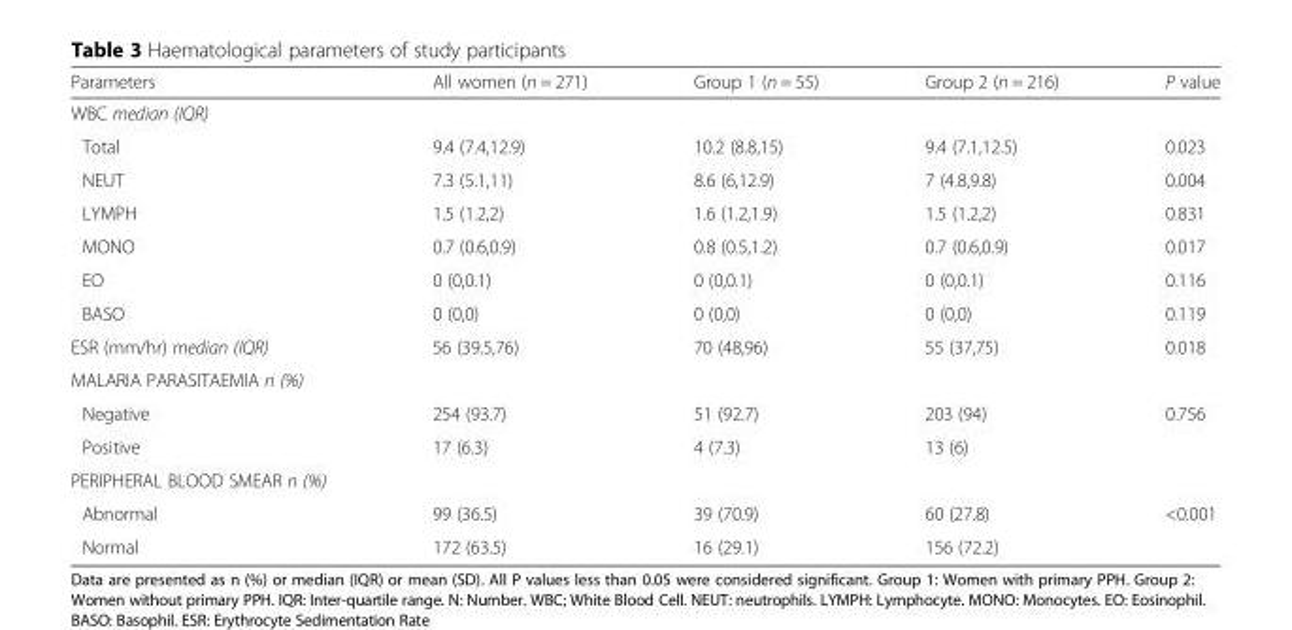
<table><thead><tr><td>Parameters</td><td>All women (n = 271)</td><td>Group 1 (n = 55)</td><td>Group 2 (n = 216)</td><td>P value</td></tr></thead><tbody><tr><td colspan="5">WBC median (IQR)</td></tr><tr><td>Total</td><td>9.4 (7.4,12.9)</td><td>10.2 (8.8,15)</td><td>9.4 (7.1,12.5)</td><td>0.023</td></tr><tr><td>NEUT</td><td>7.3 (5.1,11)</td><td>8.6 (6,12.9)</td><td>7 (4.8,9.8)</td><td>0.004</td></tr><tr><td>LYMPH</td><td>1.5 (1.2,2)</td><td>1.6 (1.2,1.9)</td><td>1.5 (1.2,2)</td><td>0.831</td></tr><tr><td>MONO</td><td>0.7 (0.6,0.9)</td><td>0.8 (0.5,1.2)</td><td>0.7 (0.6,0.9)</td><td>0.017</td></tr><tr><td>EO</td><td>0 (0,0.1)</td><td>0 (0,0.1)</td><td>0 (0,0.1)</td><td>0.116</td></tr><tr><td>BASO</td><td>0 (0,0)</td><td>0 (0,0)</td><td>0 (0,0)</td><td>0.119</td></tr><tr><td>ESR (mm/hr) median (IQR)</td><td>56 (39.5,76)</td><td>70 (48,96)</td><td>55 (37,75)</td><td>0.018</td></tr><tr><td colspan="5">MALARIA PARASITAEMIA n (%)</td></tr><tr><td>Negative</td><td>254 (93.7)</td><td>51 (92.7)</td><td>203 (94)</td><td rowspan="2">0.756</td></tr><tr><td>Positive</td><td>17 (6.3)</td><td>4 (7.3)</td><td>13 (6)</td></tr><tr><td colspan="5">PERIPHERAL BLOOD SMEAR n (%)</td></tr><tr><td>Abnormal</td><td>99 (36.5)</td><td>39 (70.9)</td><td>60 (27.8)</td><td rowspan="2">&lt;0.001</td></tr><tr><td>Normal</td><td>172 (63.5)</td><td>16 (29.1)</td><td>156 (72.2)</td></tr></tbody></table>